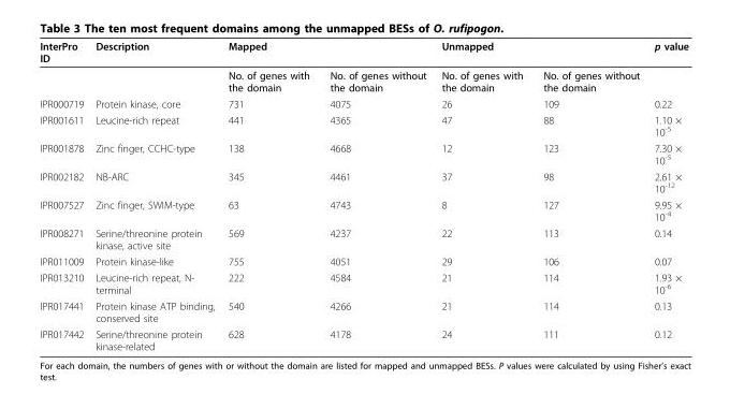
<table><thead><tr><td rowspan="2">InterPro ID</td><td rowspan="2">Description</td><td colspan="2">Mapped</td><td colspan="2">Unmapped</td><td rowspan="2">p value</td></tr><tr><td>No. of genes with the domain</td><td>No. of genes without the domain</td><td>No. of genes with the domain</td><td>No. of genes without the domain</td></tr></thead><tbody><tr><td>IPR000719</td><td>Protein kinase, core</td><td>731</td><td>4075</td><td>26</td><td>109</td><td>0.22</td></tr><tr><td>IPR001611</td><td>Leucine-rich repeat</td><td>441</td><td>4365</td><td>47</td><td>88</td><td>1.10 × 10<sup>-5</sup></td></tr><tr><td>IPR001878</td><td>Zinc finger, CCHC-type</td><td>138</td><td>4668</td><td>12</td><td>123</td><td>7.30 × 10<sup>-5</sup></td></tr><tr><td>IPR002182</td><td>NB-ARC</td><td>345</td><td>4461</td><td>37</td><td>98</td><td>2.61 × 10<sup>-12</sup></td></tr><tr><td>IPR007527</td><td>Zinc finger, SWIM-type</td><td>63</td><td>4743</td><td>8</td><td>127</td><td>9.95 × 10<sup>-4</sup></td></tr><tr><td>IPR008271</td><td>Serine/threonine protein kinase, active site</td><td>569</td><td>4237</td><td>22</td><td>113</td><td>0.14</td></tr><tr><td>IPR011009</td><td>Protein kinase-like</td><td>755</td><td>4051</td><td>29</td><td>106</td><td>0.07</td></tr><tr><td>IPR013210</td><td>Leucine-rich repeat, N- terminal</td><td>222</td><td>4584</td><td>21</td><td>114</td><td>1.93 × 10<sup>-6</sup></td></tr><tr><td>IPR017441</td><td>Protein kinase ATP binding, conserved site</td><td>540</td><td>4266</td><td>21</td><td>114</td><td>0.13</td></tr><tr><td>IPR017442</td><td>Serine/threonine protein kinase-related</td><td>628</td><td>4178</td><td>24</td><td>111</td><td>0.12</td></tr></tbody></table>